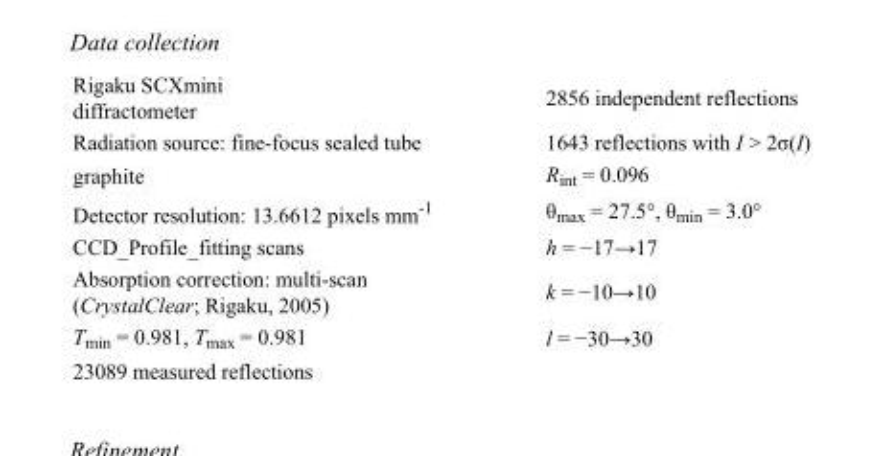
<table><tbody><tr><td>Rigaku SCXmini diffractometer</td><td>2856 independent reflections</td></tr><tr><td>Radiation source: fine-focus sealed tube</td><td>1643 reflections with I &gt; 2σ(I)</td></tr><tr><td>graphite</td><td>R<sub>int</sub> = 0.096</td></tr><tr><td>Detector resolution: 13.6612 pixels mm<sup>-1</sup></td><td>θ<sub>max</sub> = 27.5°, θ<sub>min</sub> = 3.0°</td></tr><tr><td>CCD_Profile_fitting scans</td><td>h = −17→17</td></tr><tr><td>Absorption correction: multi-scan (CrystalClear; Rigaku, 2005)</td><td>k = −10→10</td></tr><tr><td>T<sub>min</sub> = 0.981, T<sub>max</sub> = 0.981</td><td>l = −30→30</td></tr><tr><td>23089 measured reflections</td><td></td></tr></tbody></table>